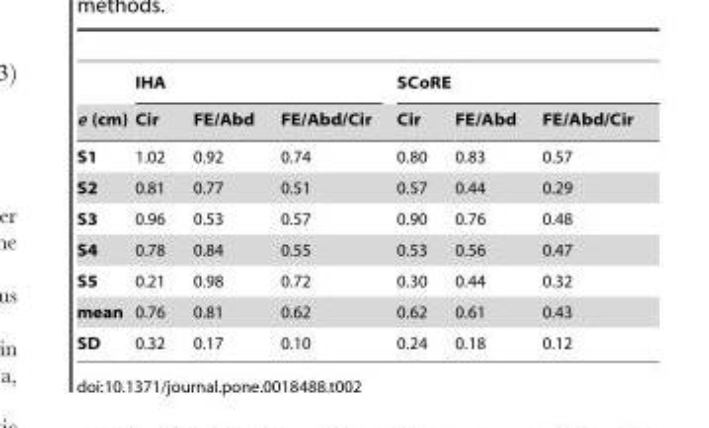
<table><thead><tr><td rowspan="2">e (cm)</td><td colspan="3">IHA</td><td colspan="3">SCoRE</td></tr><tr><td>Cir</td><td>FE/Abd</td><td>FE/Abd/Cir</td><td>Cir</td><td>FE/Abd</td><td>FE/Abd/Cir</td></tr></thead><tbody><tr><td>S1</td><td>1.02</td><td>0.92</td><td>0.74</td><td>0.80</td><td>0.83</td><td>0.57</td></tr><tr><td>S2</td><td>0.81</td><td>0.77</td><td>0.51</td><td>0.57</td><td>0.44</td><td>0.29</td></tr><tr><td>S3</td><td>0.96</td><td>0.53</td><td>0.57</td><td>0.90</td><td>0.76</td><td>0.48</td></tr><tr><td>S4</td><td>0.78</td><td>0.84</td><td>0.55</td><td>0.53</td><td>0.56</td><td>0.47</td></tr><tr><td>S5</td><td>0.21</td><td>0.98</td><td>0.72</td><td>0.30</td><td>0.44</td><td>0.32</td></tr><tr><td>mean</td><td>0.76</td><td>0.81</td><td>0.62</td><td>0.62</td><td>0.61</td><td>0.43</td></tr><tr><td>SD</td><td>0.32</td><td>0.17</td><td>0.10</td><td>0.24</td><td>0.18</td><td>0.12</td></tr></tbody></table>